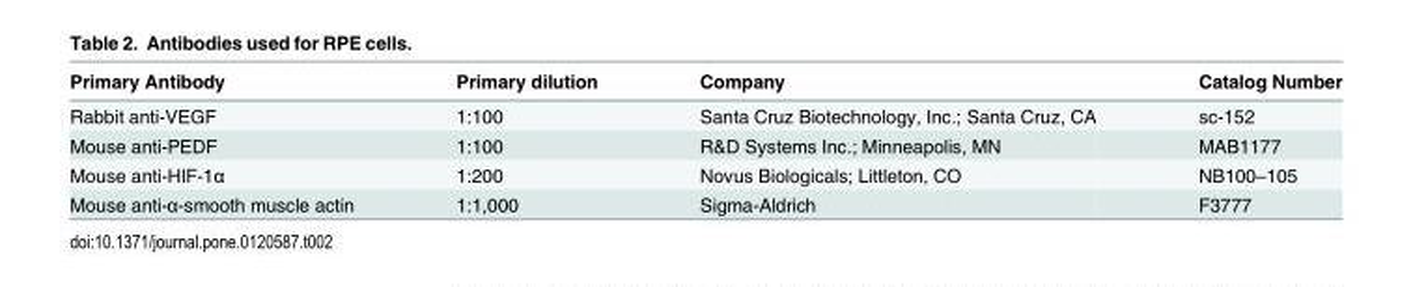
<table><thead><tr><td>Primary Antibody</td><td>Primary dilution</td><td>Company</td><td>Catalog Number</td></tr></thead><tbody><tr><td>Rabbit anti-VEGF</td><td>1:100</td><td>Santa Cruz Biotechnology, Inc.; Santa Cruz, CA</td><td>sc-152</td></tr><tr><td>Mouse anti-PEDF</td><td>1:100</td><td>R&amp;D Systems Inc.; Minneapolis, MN</td><td>MAB1177</td></tr><tr><td>Mouse anti-HIF-1α</td><td>1:200</td><td>Novus Biologicals; Littleton, CO</td><td>NB100–105</td></tr><tr><td>Mouse anti-α-smooth muscle actin</td><td>1:1,000</td><td>Sigma-Aldrich</td><td>F3777</td></tr></tbody></table>